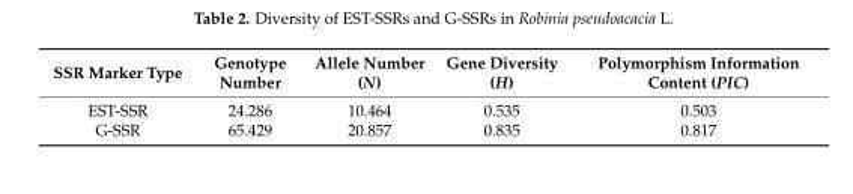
<table><thead><tr><td>SSR Marker Type</td><td>Genotype Number</td><td>Allele Number (N)</td><td>Gene Diversity (H)</td><td>Polymorphism Information Content (PIC)</td></tr></thead><tbody><tr><td>EST-SSR</td><td>24.286</td><td>10.464</td><td>0.535</td><td>0.503</td></tr><tr><td>G-SSR</td><td>65.429</td><td>20.857</td><td>0.835</td><td>0.817</td></tr></tbody></table>